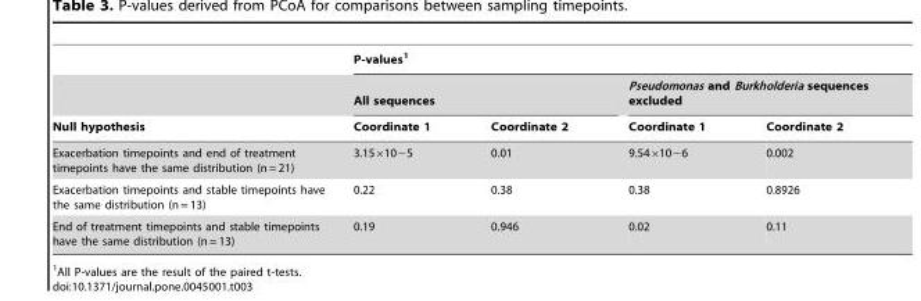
<table><thead><tr><td rowspan="3">Null hypothesis</td><td colspan="4">P-values<sup>1</sup></td></tr><tr><td colspan="2">All sequences</td><td colspan="2">Pseudomonas and Burkholderia sequences excluded</td></tr><tr><td>Coordinate 1</td><td>Coordinate 2</td><td>Coordinate 1</td><td>Coordinate 2</td></tr></thead><tbody><tr><td>Exacerbation timepoints and end of treatment timepoints have the same distribution (n = 21)</td><td>3.15×10−5</td><td>0.01</td><td>9.54×10−6</td><td>0.002</td></tr><tr><td>Exacerbation timepoints and stable timepoints have the same distribution (n = 13)</td><td>0.22</td><td>0.38</td><td>0.38</td><td>0.8926</td></tr><tr><td>End of treatment timepoints and stable timepoints have the same distribution (n = 13)</td><td>0.19</td><td>0.946</td><td>0.02</td><td>0.11</td></tr></tbody></table>